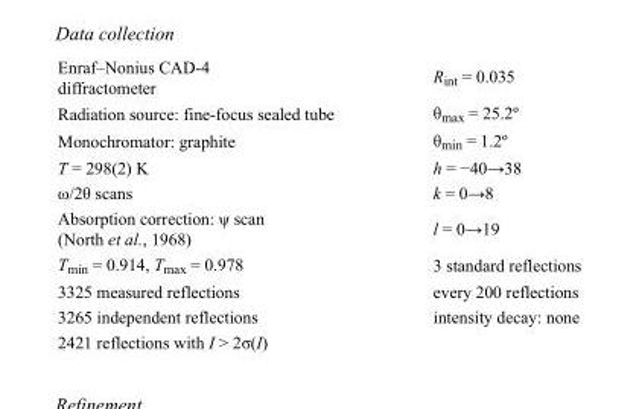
<table><tbody><tr><td>Enraf–Nonius CAD-4 diffractometer</td><td>R<sub>int</sub> = 0.035</td></tr><tr><td>Radiation source: fine-focus sealed tube</td><td>θ<sub>max</sub> = 25.2º</td></tr><tr><td>Monochromator: graphite</td><td>θ<sub>min</sub> = 1.2º</td></tr><tr><td>T = 298(2) K</td><td>h = −40→38</td></tr><tr><td>ω/2θ scans</td><td>k = 0→8</td></tr><tr><td>Absorption correction: ψ scan (North et al., 1968)</td><td>l = 0→19</td></tr><tr><td>T<sub>min</sub> = 0.914, T<sub>max</sub> = 0.978</td><td>3 standard reflections</td></tr><tr><td>3325 measured reflections</td><td>every 200 reflections</td></tr><tr><td>3265 independent reflections</td><td>intensity decay: none</td></tr><tr><td>2421 reflections with I &gt; 2σ(I)</td><td></td></tr></tbody></table>